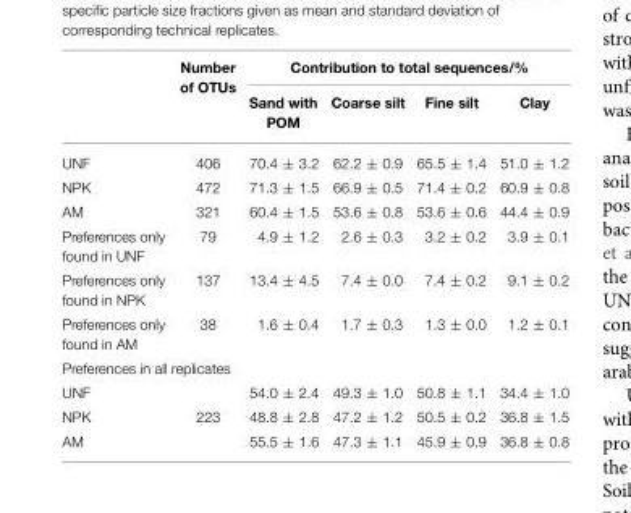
<table><thead><tr><td rowspan="2"></td><td rowspan="2">Number of OTUs</td><td colspan="4">Contribution to total sequences/%</td></tr><tr><td>Sand with POM</td><td>Coarse silt</td><td>Fine silt</td><td>Clay</td></tr></thead><tbody><tr><td>UNF</td><td>406</td><td>70.4 ± 3.2</td><td>62.2 ± 0.9</td><td>65.5 ± 1.4</td><td>51.0 ± 1.2</td></tr><tr><td>NPK</td><td>472</td><td>71.3 ± 1.5</td><td>66.9 ± 0.5</td><td>71.4 ± 0.2</td><td>60.9 ± 0.8</td></tr><tr><td>AM</td><td>321</td><td>60.4 ± 1.5</td><td>53.6 ± 0.8</td><td>53.6 ± 0.6</td><td>44.4 ± 0.9</td></tr><tr><td>Preferences only found in UNF</td><td>79</td><td>4.9 ± 1.2</td><td>2.6 ± 0.3</td><td>3.2 ± 0.2</td><td>3.9 ± 0.1</td></tr><tr><td>Preferences only found in NPK</td><td>137</td><td>13.4 ± 4.5</td><td>7.4 ± 0.0</td><td>7.4 ± 0.2</td><td>9.1 ± 0.2</td></tr><tr><td>Preferences only found in AM</td><td>38</td><td>1.6 ± 0.4</td><td>1.7 ± 0.3</td><td>1.3 ± 0.0</td><td>1.2 ± 0.1</td></tr><tr><td colspan="6">Preferences in all replicates</td></tr><tr><td>UNF</td><td></td><td>54.0 ± 2.4</td><td>49.3 ± 1.0</td><td>50.8 ± 1.1</td><td>34.4 ± 1.0</td></tr><tr><td>NPK</td><td>223</td><td>48.8 ± 2.8</td><td>47.2 ± 1.2</td><td>50.5 ± 0.2</td><td>36.8 ± 1.5</td></tr><tr><td>AM</td><td></td><td>55.5 ± 1.6</td><td>47.3 ± 1.1</td><td>45.9 ± 0.9</td><td>36.8 ± 0.8</td></tr></tbody></table>